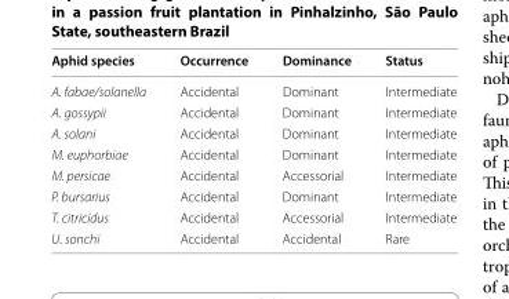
<table><thead><tr><td>Aphid species</td><td>Occurrence</td><td>Dominance</td><td>Status</td></tr></thead><tbody><tr><td>A. fabae/solanella</td><td>Accidental</td><td>Dominant</td><td>Intermediate</td></tr><tr><td>A. gossypii</td><td>Accidental</td><td>Dominant</td><td>Intermediate</td></tr><tr><td>A. solani</td><td>Accidental</td><td>Dominant</td><td>Intermediate</td></tr><tr><td>M. euphorbiae</td><td>Accidental</td><td>Dominant</td><td>Intermediate</td></tr><tr><td>M. persicae</td><td>Accidental</td><td>Accessorial</td><td>Intermediate</td></tr><tr><td>P. bursarius</td><td>Accidental</td><td>Dominant</td><td>Intermediate</td></tr><tr><td>T. citricidus</td><td>Accidental</td><td>Accessorial</td><td>Intermediate</td></tr><tr><td>U. sonchi</td><td>Accidental</td><td>Accidental</td><td>Rare</td></tr></tbody></table>